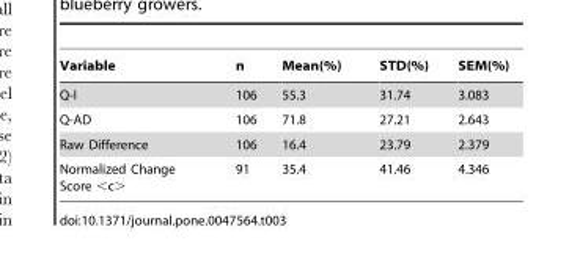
<table><thead><tr><td>Variable</td><td>n</td><td>Mean(%)</td><td>STD(%)</td><td>SEM(%)</td></tr></thead><tbody><tr><td>Q-I</td><td>106</td><td>55.3</td><td>31.74</td><td>3.083</td></tr><tr><td>Q-AD</td><td>106</td><td>71.8</td><td>27.21</td><td>2.643</td></tr><tr><td>Raw Difference</td><td>106</td><td>16.4</td><td>23.79</td><td>2.379</td></tr><tr><td>Normalized Change Score &lt;c&gt;</td><td>91</td><td>35.4</td><td>41.46</td><td>4.346</td></tr></tbody></table>